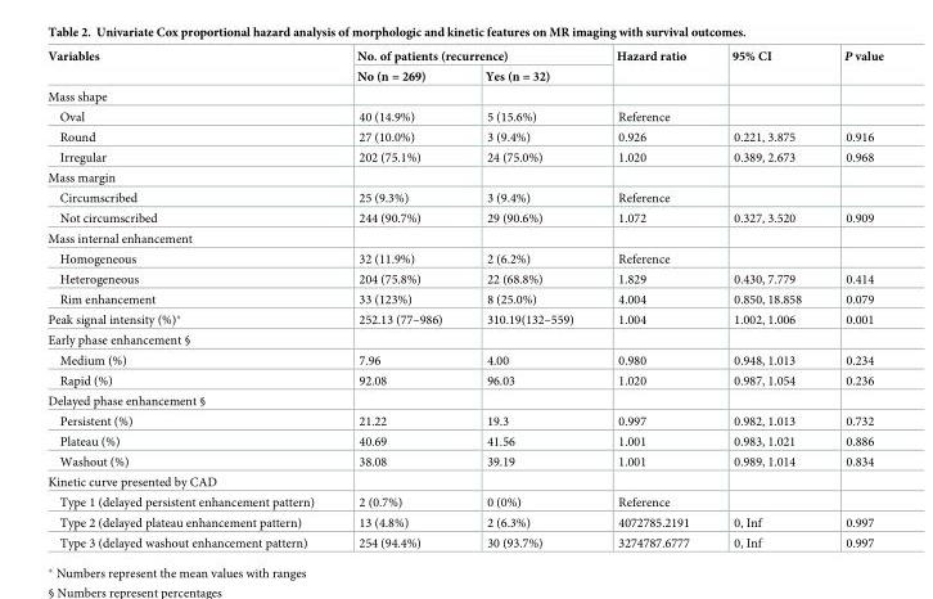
<table><thead><tr><td rowspan="2">Variables</td><td colspan="2">No. of patients (recurrence)</td><td rowspan="2">Hazard ratio</td><td rowspan="2">95% CI</td><td rowspan="2">P value</td></tr><tr><td>No (n = 269)</td><td>Yes (n = 32)</td></tr></thead><tbody><tr><td colspan="6">Mass shape</td></tr><tr><td>Oval</td><td>40 (14.9%)</td><td>5 (15.6%)</td><td>Reference</td><td></td><td></td></tr><tr><td>Round</td><td>27 (10.0%)</td><td>3 (9.4%)</td><td>0.926</td><td>0.221, 3.875</td><td>0.916</td></tr><tr><td>Irregular</td><td>202 (75.1%)</td><td>24 (75.0%)</td><td>1.020</td><td>0.389, 2.673</td><td>0.968</td></tr><tr><td colspan="6">Mass margin</td></tr><tr><td>Circumscribed</td><td>25 (9.3%)</td><td>3 (9.4%)</td><td>Reference</td><td></td><td></td></tr><tr><td>Not circumscribed</td><td>244 (90.7%)</td><td>29 (90.6%)</td><td>1.072</td><td>0.327, 3.520</td><td>0.909</td></tr><tr><td colspan="6">Mass internal enhancement</td></tr><tr><td>Homogeneous</td><td>32 (11.9%)</td><td>2 (6.2%)</td><td>Reference</td><td></td><td></td></tr><tr><td>Heterogeneous</td><td>204 (75.8%)</td><td>22 (68.8%)</td><td>1.829</td><td>0.430, 7.779</td><td>0.414</td></tr><tr><td>Rim enhancement</td><td>33 (123%)</td><td>8 (25.0%)</td><td>4.004</td><td>0.850, 18.858</td><td>0.079</td></tr><tr><td>Peak signal intensity (%)*</td><td>252.13 (77–986)</td><td>310.19(132–559)</td><td>1.004</td><td>1.002, 1.006</td><td>0.001</td></tr><tr><td colspan="6">Early phase enhancement §</td></tr><tr><td>Medium (%)</td><td>7.96</td><td>4.00</td><td>0.980</td><td>0.948, 1.013</td><td>0.234</td></tr><tr><td>Rapid (%)</td><td>92.08</td><td>96.03</td><td>1.020</td><td>0.987, 1.054</td><td>0.236</td></tr><tr><td colspan="6">Delayed phase enhancement §</td></tr><tr><td>Persistent (%)</td><td>21.22</td><td>19.3</td><td>0.997</td><td>0.982, 1.013</td><td>0.732</td></tr><tr><td>Plateau (%)</td><td>40.69</td><td>41.56</td><td>1.001</td><td>0.983, 1.021</td><td>0.886</td></tr><tr><td>Washout (%)</td><td>38.08</td><td>39.19</td><td>1.001</td><td>0.989, 1.014</td><td>0.834</td></tr><tr><td colspan="6">Kinetic curve presented by CAD</td></tr><tr><td>Type 1 (delayed persistent enhancement pattern)</td><td>2 (0.7%)</td><td>0 (0%)</td><td>Reference</td><td></td><td></td></tr><tr><td>Type 2 (delayed plateau enhancement pattern)</td><td>13 (4.8%)</td><td>2 (6.3%)</td><td>4072785.2191</td><td>0, Inf</td><td>0.997</td></tr><tr><td>Type 3 (delayed washout enhancement pattern)</td><td>254 (94.4%)</td><td>30 (93.7%)</td><td>3274787.6777</td><td>0, Inf</td><td>0.997</td></tr></tbody></table>